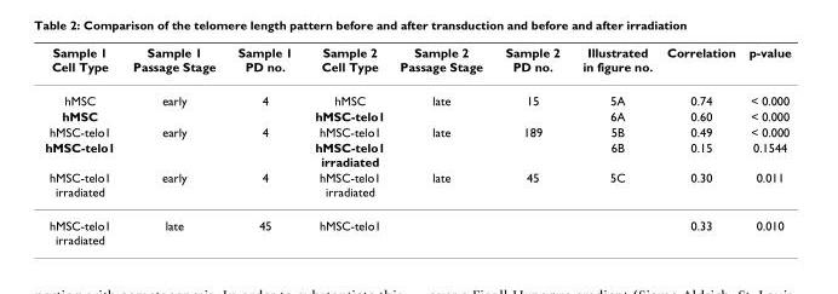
<table><thead><tr><td>Sample 1 Cell Type</td><td>Sample 1 Passage Stage</td><td>Sample 1 PD no.</td><td>Sample 2 Cell Type</td><td>Sample 2 Passage Stage</td><td>Sample 2 PD no.</td><td>Illustrated in figure no.</td><td>Correlation</td><td>p-value</td></tr></thead><tbody><tr><td>hMSC</td><td>early</td><td>4</td><td>hMSC</td><td>late</td><td>15</td><td>5A</td><td>0.74</td><td>&lt; 0.000</td></tr><tr><td>hMSC</td><td></td><td></td><td>hMSC-telo1</td><td></td><td></td><td>6A</td><td>0.60</td><td>&lt; 0.000</td></tr><tr><td>hMSC-telo1</td><td>early</td><td>4</td><td>hMSC-telo1</td><td>late</td><td>189</td><td>5B</td><td>0.49</td><td>&lt; 0.000</td></tr><tr><td>hMSC-telo1</td><td></td><td></td><td>hMSC-telo1 irradiated</td><td></td><td></td><td>6B</td><td>0.15</td><td>0.1544</td></tr><tr><td>hMSC-telo1 irradiated</td><td>early</td><td>4</td><td>hMSC-telo1 irradiated</td><td>late</td><td>45</td><td>5C</td><td>0.30</td><td>0.011</td></tr><tr><td>hMSC-telo1 irradiated</td><td>late</td><td>45</td><td>hMSC-telo1</td><td></td><td></td><td></td><td>0.33</td><td>0.010</td></tr></tbody></table>